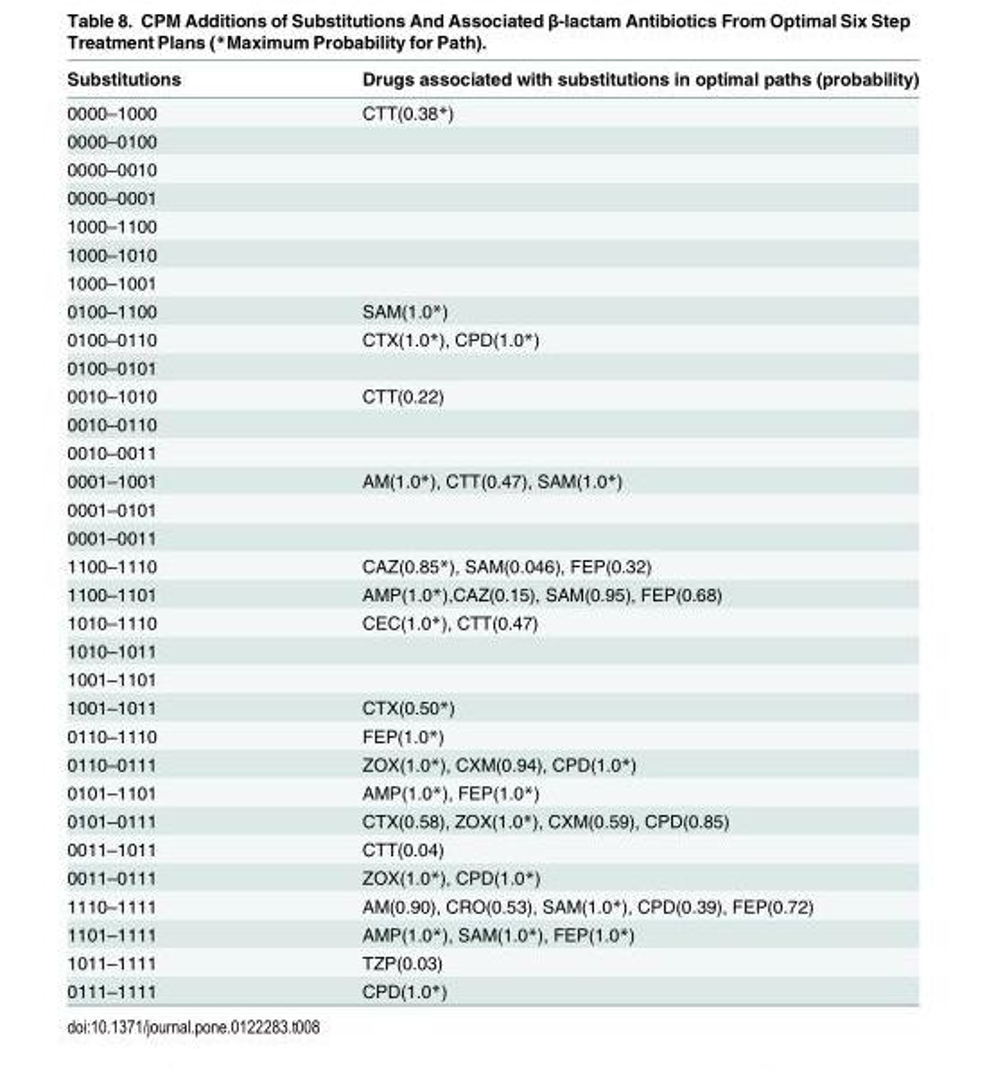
<table><thead><tr><td>Substitutions</td><td>Drugs associated with substitutions in optimal paths (probability)</td></tr></thead><tbody><tr><td>0000–1000</td><td>CTT(0.38*)</td></tr><tr><td colspan="2">0000–0100</td></tr><tr><td colspan="2">0000–0010</td></tr><tr><td colspan="2">0000–0001</td></tr><tr><td colspan="2">1000–1100</td></tr><tr><td colspan="2">1000–1010</td></tr><tr><td colspan="2">1000–1001</td></tr><tr><td>0100–1100</td><td>SAM(1.0*)</td></tr><tr><td>0100–0110</td><td>CTX(1.0*), CPD(1.0*)</td></tr><tr><td colspan="2">0100–0101</td></tr><tr><td>0010–1010</td><td>CTT(0.22)</td></tr><tr><td colspan="2">0010–0110</td></tr><tr><td colspan="2">0010–0011</td></tr><tr><td>0001–1001</td><td>AM(1.0*), CTT(0.47), SAM(1.0*)</td></tr><tr><td colspan="2">0001–0101</td></tr><tr><td colspan="2">0001–0011</td></tr><tr><td>1100–1110</td><td>CAZ(0.85*), SAM(0.046), FEP(0.32)</td></tr><tr><td>1100–1101</td><td>AMP(1.0*),CAZ(0.15), SAM(0.95), FEP(0.68)</td></tr><tr><td>1010–1110</td><td>CEC(1.0*), CTT(0.47)</td></tr><tr><td colspan="2">1010–1011</td></tr><tr><td colspan="2">1001–1101</td></tr><tr><td>1001–1011</td><td>CTX(0.50*)</td></tr><tr><td>0110–1110</td><td>FEP(1.0*)</td></tr><tr><td>0110–0111</td><td>ZOX(1.0*), CXM(0.94), CPD(1.0*)</td></tr><tr><td>0101–1101</td><td>AMP(1.0*), FEP(1.0*)</td></tr><tr><td>0101–0111</td><td>CTX(0.58), ZOX(1.0*), CXM(0.59), CPD(0.85)</td></tr><tr><td>0011–1011</td><td>CTT(0.04)</td></tr><tr><td>0011–0111</td><td>ZOX(1.0*), CPD(1.0*)</td></tr><tr><td>1110–1111</td><td>AM(0.90), CRO(0.53), SAM(1.0*), CPD(0.39), FEP(0.72)</td></tr><tr><td>1101–1111</td><td>AMP(1.0*), SAM(1.0*), FEP(1.0*)</td></tr><tr><td>1011–1111</td><td>TZP(0.03)</td></tr><tr><td>0111–1111</td><td>CPD(1.0*)</td></tr></tbody></table>